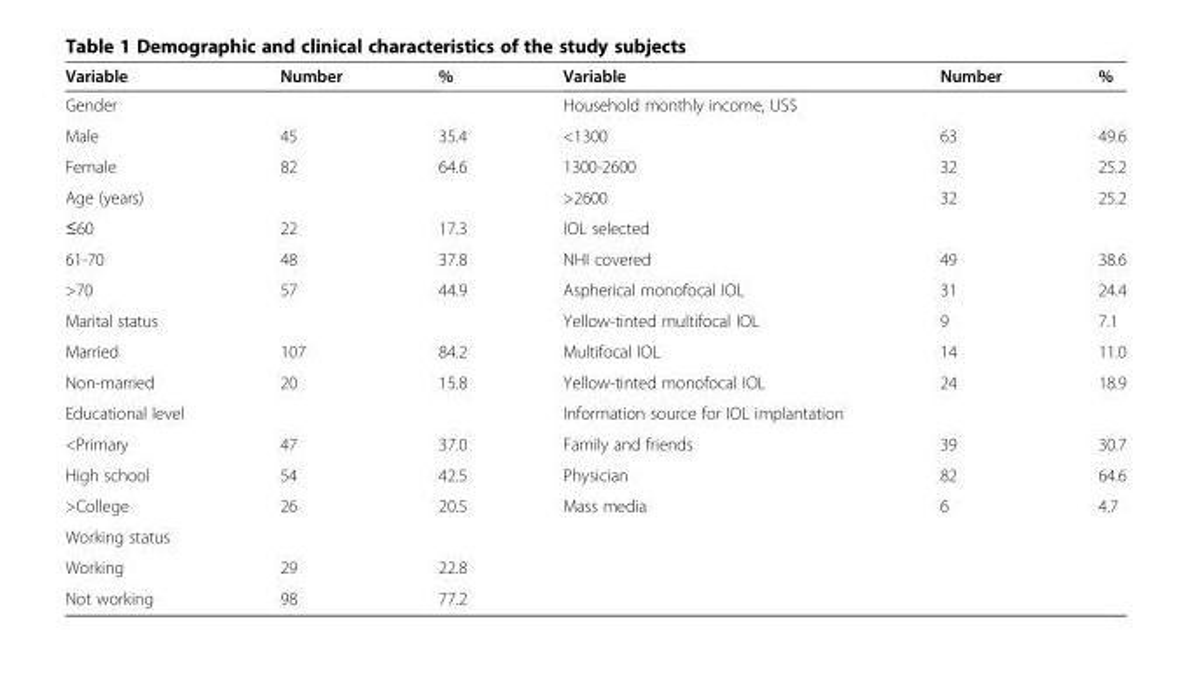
<table><thead><tr><td>Variable</td><td>Number</td><td>%</td><td>Variable</td><td>Number</td><td>%</td></tr></thead><tbody><tr><td>Gender</td><td></td><td></td><td>Household monthly income, US$</td><td></td><td></td></tr><tr><td>Male</td><td>45</td><td>35.4</td><td>&lt;1300</td><td>63</td><td>49.6</td></tr><tr><td>Female</td><td>82</td><td>64.6</td><td>1300-2600</td><td>32</td><td>25.2</td></tr><tr><td>Age (years)</td><td></td><td></td><td>&gt;2600</td><td>32</td><td>25.2</td></tr><tr><td>≤60</td><td>22</td><td>17.3</td><td>IOL selected</td><td></td><td></td></tr><tr><td>61-70</td><td>48</td><td>37.8</td><td>NHI covered</td><td>49</td><td>38.6</td></tr><tr><td>&gt;70</td><td>57</td><td>44.9</td><td>Aspherical monofocal IOL</td><td>31</td><td>24.4</td></tr><tr><td>Marital status</td><td></td><td></td><td>Yellow-tinted multifocal IOL</td><td>9</td><td>7.1</td></tr><tr><td>Married</td><td>107</td><td>84.2</td><td>Multifocal IOL</td><td>14</td><td>11.0</td></tr><tr><td>Non-married</td><td>20</td><td>15.8</td><td>Yellow-tinted monofocal IOL</td><td>24</td><td>18.9</td></tr><tr><td>Educational level</td><td></td><td></td><td>Information source for IOL implantation</td><td></td><td></td></tr><tr><td>&lt;Primary</td><td>47</td><td>37.0</td><td>Family and friends</td><td>39</td><td>30.7</td></tr><tr><td>High school</td><td>54</td><td>42.5</td><td>Physician</td><td>82</td><td>64.6</td></tr><tr><td>&gt;College</td><td>26</td><td>20.5</td><td>Mass media</td><td>6</td><td>4.7</td></tr><tr><td colspan="6">Working status</td></tr><tr><td>Working</td><td>29</td><td>22.8</td><td></td><td></td><td></td></tr><tr><td>Not working</td><td>98</td><td>77.2</td><td></td><td></td><td></td></tr></tbody></table>